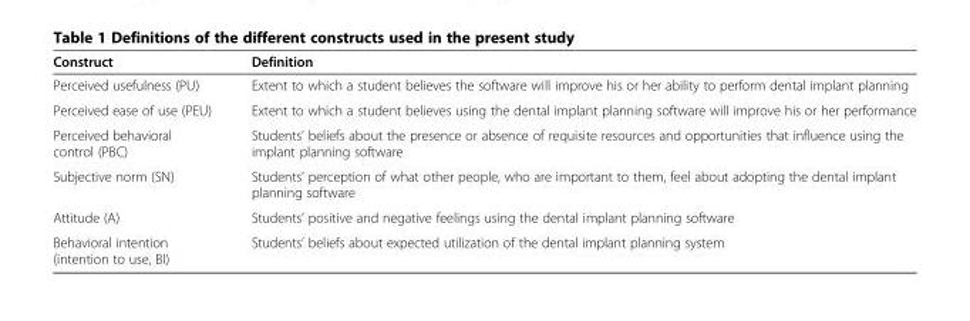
<table><thead><tr><td>Construct</td><td>Definition</td></tr></thead><tbody><tr><td>Perceived usefulness (PU)</td><td>Extent to which a student believes the software will improve his or her ability to perform dental implant planning</td></tr><tr><td>Perceived ease of use (PEU)</td><td>Extent to which a student believes using the dental implant planning software will improve his or her performance</td></tr><tr><td>Perceived behavioral control (PBC)</td><td>Students’ beliefs about the presence or absence of requisite resources and opportunities that influence using the implant planning software</td></tr><tr><td>Subjective norm (SN)</td><td>Students’ perception of what other people, who are important to them, feel about adopting the dental implant planning software</td></tr><tr><td>Attitude (A)</td><td>Students’ positive and negative feelings using the dental implant planning software</td></tr><tr><td>Behavioral intention (intention to use, BI)</td><td>Students’ beliefs about expected utilization of the dental implant planning system</td></tr></tbody></table>